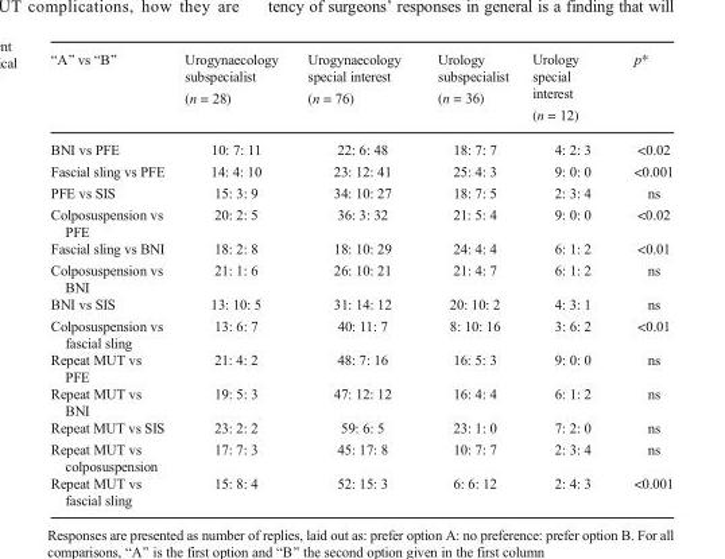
<table><thead><tr><td>“A” vs “B”</td><td>Urogynaecology subspecialist (n = 28)</td><td>Urogynaecology special interest (n = 76)</td><td>Urology subspecialist (n = 36)</td><td>Urology special interest (n = 12)</td><td>p*</td></tr></thead><tbody><tr><td>BNI vs PFE</td><td>10: 7: 11</td><td>22: 6: 48</td><td>18: 7: 7</td><td>4: 2: 3</td><td>&lt;0.02</td></tr><tr><td>Fascial sling vs PFE</td><td>14: 4: 10</td><td>23: 12: 41</td><td>25: 4: 3</td><td>9: 0: 0</td><td>&lt;0.001</td></tr><tr><td>PFE vs SIS</td><td>15: 3: 9</td><td>34: 10: 27</td><td>18: 7: 5</td><td>2: 3: 4</td><td>ns</td></tr><tr><td>Colposuspension vs PFE</td><td>20: 2: 5</td><td>36: 3: 32</td><td>21: 5: 4</td><td>9: 0: 0</td><td>&lt;0.02</td></tr><tr><td>Fascial sling vs BNI</td><td>18: 2: 8</td><td>18: 10: 29</td><td>24: 4: 4</td><td>6: 1: 2</td><td>&lt;0.01</td></tr><tr><td>Colposuspension vs BNI</td><td>21: 1: 6</td><td>26: 10: 21</td><td>21: 4: 7</td><td>6: 1: 2</td><td>ns</td></tr><tr><td>BNI vs SIS</td><td>13: 10: 5</td><td>31: 14: 12</td><td>20: 10: 2</td><td>4: 3: 1</td><td>ns</td></tr><tr><td>Colposuspension vs fascial sling</td><td>13: 6: 7</td><td>40: 11: 7</td><td>8: 10: 16</td><td>3: 6: 2</td><td>&lt;0.01</td></tr><tr><td>Repeat MUT vs PFE</td><td>21: 4: 2</td><td>48: 7: 16</td><td>16: 5: 3</td><td>9: 0: 0</td><td>ns</td></tr><tr><td>Repeat MUT vs BNI</td><td>19: 5: 3</td><td>47: 12: 12</td><td>16: 4: 4</td><td>6: 1: 2</td><td>ns</td></tr><tr><td>Repeat MUT vs SIS</td><td>23: 2: 2</td><td>59: 6: 5</td><td>23: 1: 0</td><td>7: 2: 0</td><td>ns</td></tr><tr><td>Repeat MUT vs colposuspension</td><td>17: 7: 3</td><td>45: 17: 8</td><td>10: 7: 7</td><td>2: 3: 4</td><td>ns</td></tr><tr><td>Repeat MUT vs fascial sling</td><td>15: 8: 4</td><td>52: 15: 3</td><td>6: 6: 12</td><td>2: 4: 3</td><td>&lt;0.001</td></tr></tbody></table>